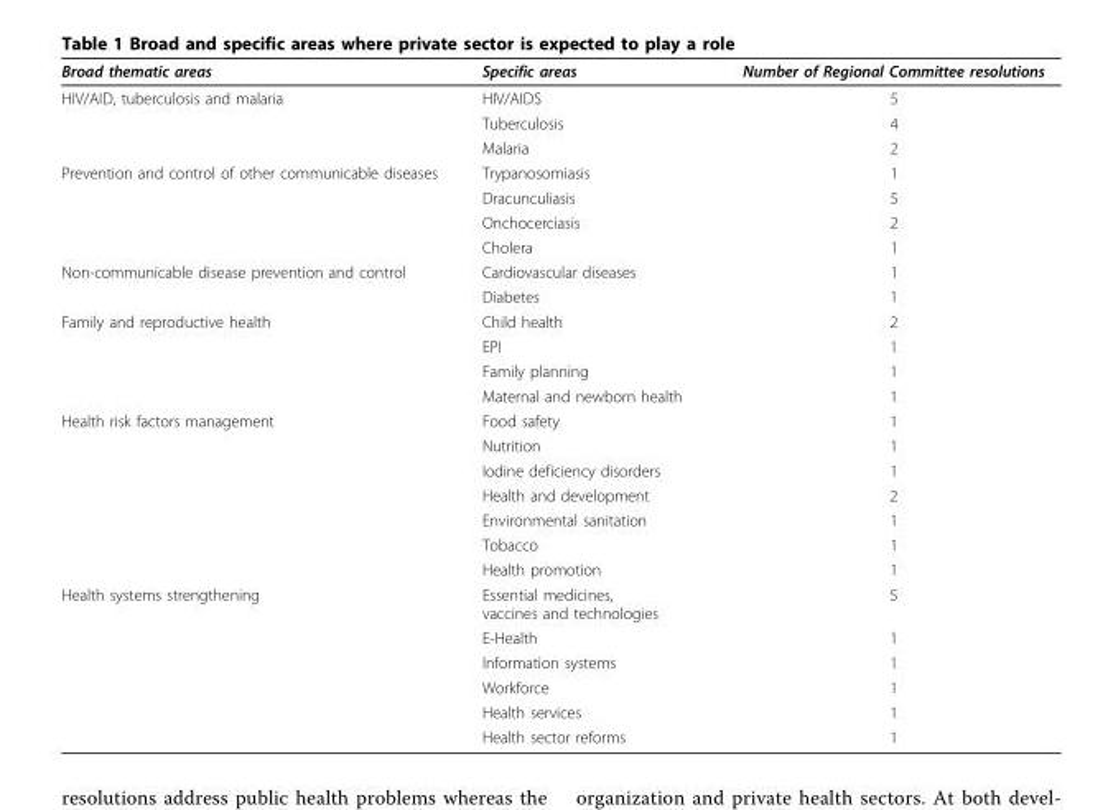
<table><thead><tr><td>Broad thematic areas</td><td>Specific areas</td><td>Number of Regional Committee resolutions</td></tr></thead><tbody><tr><td rowspan="3">HIV/AID, tuberculosis and malaria</td><td>HIV/AIDS</td><td>5</td></tr><tr><td>Tuberculosis</td><td>4</td></tr><tr><td>Malaria</td><td>2</td></tr><tr><td rowspan="4">Prevention and control of other communicable diseases</td><td>Trypanosomiasis</td><td>1</td></tr><tr><td>Dracunculiasis</td><td>5</td></tr><tr><td>Onchocerciasis</td><td>2</td></tr><tr><td>Cholera</td><td>1</td></tr><tr><td rowspan="2">Non-communicable disease prevention and control</td><td>Cardiovascular diseases</td><td>1</td></tr><tr><td>Diabetes</td><td>1</td></tr><tr><td rowspan="4">Family and reproductive health</td><td>Child health</td><td>2</td></tr><tr><td>EPI</td><td>1</td></tr><tr><td>Family planning</td><td>1</td></tr><tr><td>Maternal and newborn health</td><td>1</td></tr><tr><td rowspan="7">Health risk factors management</td><td>Food safety</td><td>1</td></tr><tr><td>Nutrition</td><td>1</td></tr><tr><td>Iodine deficiency disorders</td><td>1</td></tr><tr><td>Health and development</td><td>2</td></tr><tr><td>Environmental sanitation</td><td>1</td></tr><tr><td>Tobacco</td><td>1</td></tr><tr><td>Health promotion</td><td>1</td></tr><tr><td rowspan="6">Health systems strengthening</td><td>Essential medicines, vaccines and technologies</td><td>5</td></tr><tr><td>E-Health</td><td>1</td></tr><tr><td>Information systems</td><td>1</td></tr><tr><td>Workforce</td><td>1</td></tr><tr><td>Health services</td><td>1</td></tr><tr><td>Health sector reforms</td><td>1</td></tr></tbody></table>